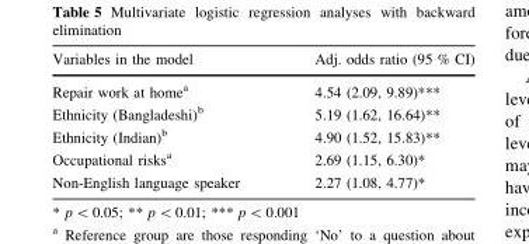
<table><thead><tr><td>Variables in the model</td><td>Adj. odds ratio (95 % CI)</td></tr></thead><tbody><tr><td>Repair work at home<sup>a</sup></td><td>4.54 (2.09, 9.89)***</td></tr><tr><td>Ethnicity (Bangladeshi)<sup>b</sup></td><td>5.19 (1.62, 16.64)**</td></tr><tr><td>Ethnicity (Indian)<sup>b</sup></td><td>4.90 (1.52, 15.83)**</td></tr><tr><td>Occupational risks<sup>a</sup></td><td>2.69 (1.15, 6.30)*</td></tr><tr><td>Non-English language speaker</td><td>2.27 (1.08, 4.77)*</td></tr></tbody></table>